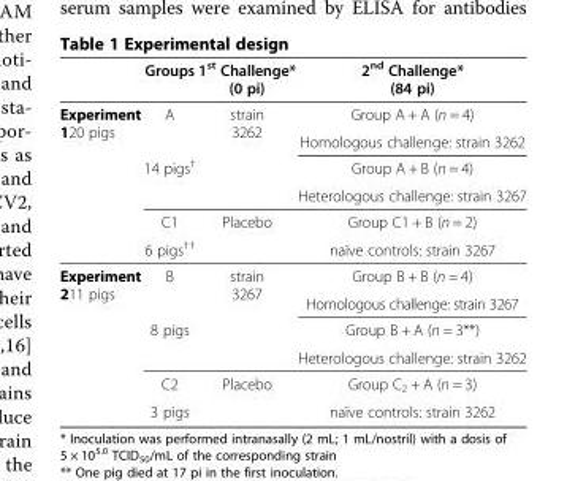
<table><thead><tr><td></td><td>Groups</td><td>1<sup>st</sup> Challenge* (0 pi)</td><td>2<sup>nd</sup> Challenge* (84 pi)</td></tr></thead><tbody><tr><td rowspan="6">Experiment 120 pigs</td><td rowspan="2">A</td><td rowspan="4">strain 3262</td><td>Group A + A (n = 4)</td></tr><tr><td>Homologous challenge: strain 3262</td></tr><tr><td rowspan="2">14 pigs<sup>†</sup></td><td>Group A + B (n = 4)</td></tr><tr><td>Heterologous challenge: strain 3267</td></tr><tr><td>C1</td><td rowspan="2">Placebo</td><td>Group C1 + B (n = 2)</td></tr><tr><td>6 pigs<sup>††</sup></td><td>naïve controls: strain 3267</td></tr><tr><td rowspan="6">Experiment 211 pigs</td><td rowspan="2">B</td><td rowspan="4">strain 3267</td><td>Group B + B (n = 4)</td></tr><tr><td>Homologous challenge: strain 3267</td></tr><tr><td rowspan="2">8 pigs</td><td>Group B + A (n = 3**)</td></tr><tr><td>Heterologous challenge: strain 3262</td></tr><tr><td>C2</td><td rowspan="2">Placebo</td><td>Group C<sub>2</sub> + A (n = 3)</td></tr><tr><td>3 pigs</td><td>naïve controls: strain 3262</td></tr></tbody></table>